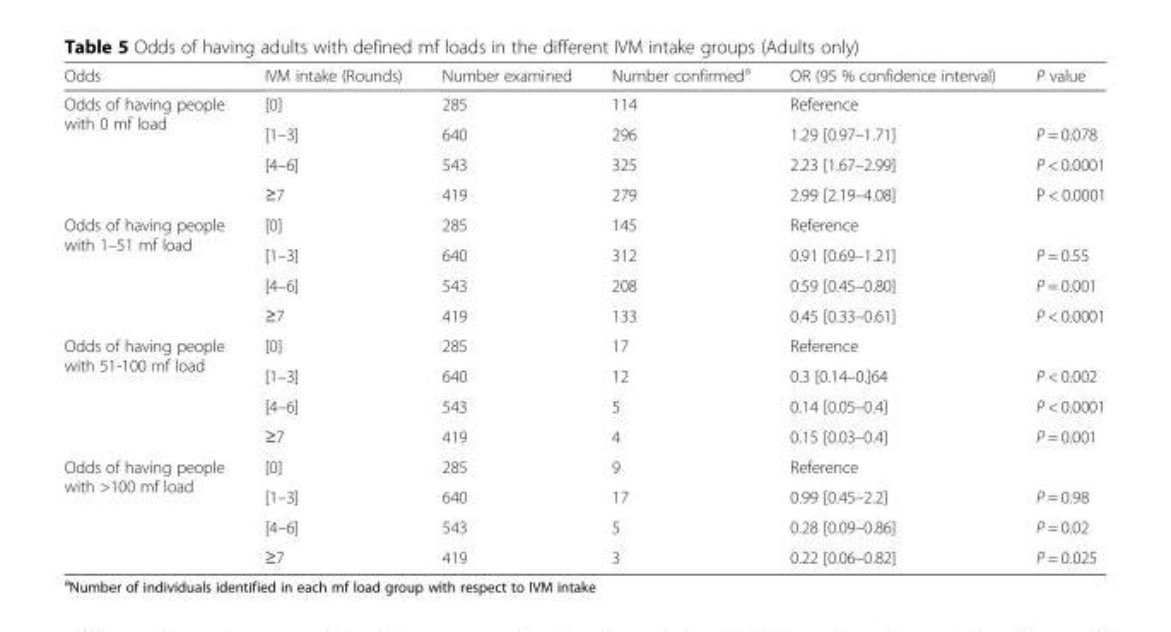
<table><thead><tr><td>Odds</td><td>IVM intake (Rounds)</td><td>Number examined</td><td>Number confirmed<sup>a</sup></td><td>OR (95 % confidence interval)</td><td>P value</td></tr></thead><tbody><tr><td rowspan="4">Odds of having people with 0 mf load</td><td>[0]</td><td>285</td><td>114</td><td>Reference</td><td></td></tr><tr><td>[1–3]</td><td>640</td><td>296</td><td>1.29 [0.97–1.71]</td><td>P = 0.078</td></tr><tr><td>[4–6]</td><td>543</td><td>325</td><td>2.23 [1.67–2.99]</td><td>P &lt; 0.0001</td></tr><tr><td>≥7</td><td>419</td><td>279</td><td>2.99 [2.19–4.08]</td><td>P &lt; 0.0001</td></tr><tr><td rowspan="4">Odds of having people with 1–51 mf load</td><td>[0]</td><td>285</td><td>145</td><td>Reference</td><td></td></tr><tr><td>[1–3]</td><td>640</td><td>312</td><td>0.91 [0.69–1.21]</td><td>P = 0.55</td></tr><tr><td>[4–6]</td><td>543</td><td>208</td><td>0.59 [0.45–0.80]</td><td>P = 0.001</td></tr><tr><td>≥7</td><td>419</td><td>133</td><td>0.45 [0.33–0.61]</td><td>P &lt; 0.0001</td></tr><tr><td rowspan="4">Odds of having people with 51-100 mf load</td><td>[0]</td><td>285</td><td>17</td><td>Reference</td><td></td></tr><tr><td>[1–3]</td><td>640</td><td>12</td><td>0.3 [0.14–0.]64</td><td>P &lt; 0.002</td></tr><tr><td>[4–6]</td><td>543</td><td>5</td><td>0.14 [0.05–0.4]</td><td>P &lt; 0.0001</td></tr><tr><td>≥7</td><td>419</td><td>4</td><td>0.15 [0.03–0.4]</td><td>P = 0.001</td></tr><tr><td rowspan="4">Odds of having people with &gt;100 mf load</td><td>[0]</td><td>285</td><td>9</td><td>Reference</td><td></td></tr><tr><td>[1–3]</td><td>640</td><td>17</td><td>0.99 [0.45–2.2]</td><td>P = 0.98</td></tr><tr><td>[4–6]</td><td>543</td><td>5</td><td>0.28 [0.09–0.86]</td><td>P = 0.02</td></tr><tr><td>≥7</td><td>419</td><td>3</td><td>0.22 [0.06–0.82]</td><td>P = 0.025</td></tr></tbody></table>